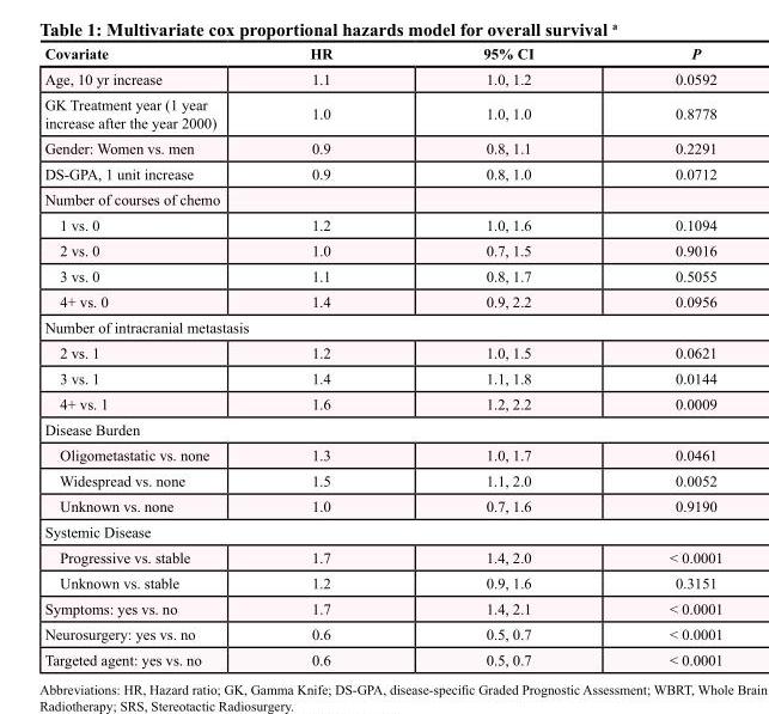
<table><thead><tr><td>Covariate</td><td>HR</td><td>95% CI</td><td>P</td></tr></thead><tbody><tr><td>Age, 10 yr increase</td><td>1.1</td><td>1.0, 1.2</td><td>0.0592</td></tr><tr><td>GK Treatment year (1 year increase after the year 2000)</td><td>1.0</td><td>1.0, 1.0</td><td>0.8778</td></tr><tr><td>Gender: Women vs. men</td><td>0.9</td><td>0.8, 1.1</td><td>0.2291</td></tr><tr><td>DS-GPA, 1 unit increase</td><td>0.9</td><td>0.8, 1.0</td><td>0.0712</td></tr><tr><td colspan="4">Number of courses of chemo</td></tr><tr><td>1 vs. 0</td><td>1.2</td><td>1.0, 1.6</td><td>0.1094</td></tr><tr><td>2 vs. 0</td><td>1.0</td><td>0.7, 1.5</td><td>0.9016</td></tr><tr><td>3 vs. 0</td><td>1.1</td><td>0.8, 1.7</td><td>0.5055</td></tr><tr><td>4+ vs. 0</td><td>1.4</td><td>0.9, 2.2</td><td>0.0956</td></tr><tr><td colspan="4">Number of intracranial metastasis</td></tr><tr><td>2 vs. 1</td><td>1.2</td><td>1.0, 1.5</td><td>0.0621</td></tr><tr><td>3 vs. 1</td><td>1.4</td><td>1.1, 1.8</td><td>0.0144</td></tr><tr><td>4+ vs. 1</td><td>1.6</td><td>1.2, 2.2</td><td>0.0009</td></tr><tr><td colspan="4">Disease Burden</td></tr><tr><td>Oligometastatic vs. none</td><td>1.3</td><td>1.0, 1.7</td><td>0.0461</td></tr><tr><td>Widespread vs. none</td><td>1.5</td><td>1.1, 2.0</td><td>0.0052</td></tr><tr><td>Unknown vs. none</td><td>1.0</td><td>0.7, 1.6</td><td>0.9190</td></tr><tr><td colspan="4">Systemic Disease</td></tr><tr><td>Progressive vs. stable</td><td>1.7</td><td>1.4, 2.0</td><td>&lt; 0.0001</td></tr><tr><td>Unknown vs. stable</td><td>1.2</td><td>0.9, 1.6</td><td>0.3151</td></tr><tr><td>Symptoms: yes vs. no</td><td>1.7</td><td>1.4, 2.1</td><td>&lt; 0.0001</td></tr><tr><td>Neurosurgery: yes vs. no</td><td>0.6</td><td>0.5, 0.7</td><td>&lt; 0.0001</td></tr><tr><td>Targeted agent: yes vs. no</td><td>0.6</td><td>0.5, 0.7</td><td>&lt; 0.0001</td></tr></tbody></table>